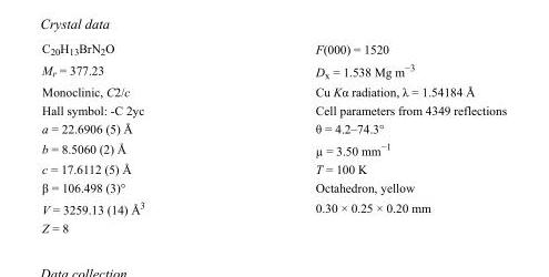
<table><tbody><tr><td>C<sub>20</sub>H<sub>13</sub>BrN<sub>2</sub>O</td><td>F(000) = 1520</td></tr><tr><td>M<sub>r</sub> = 377.23</td><td>D<sub>x</sub> = 1.538 Mg m<sup>−3</sup></td></tr><tr><td>Monoclinic, C2/c</td><td>Cu Kα radiation, λ = 1.54184 Å</td></tr><tr><td>Hall symbol: -C 2yc</td><td>Cell parameters from 4349 reflections</td></tr><tr><td>a = 22.6906 (5) Å</td><td>θ = 4.2–74.3°</td></tr><tr><td>b = 8.5060 (2) Å</td><td>µ = 3.50 mm<sup>−1</sup></td></tr><tr><td>c = 17.6112 (5) Å</td><td>T = 100 K</td></tr><tr><td>β = 106.498 (3)°</td><td>Octahedron, yellow</td></tr><tr><td>V = 3259.13 (14) Å<sup>3</sup></td><td>0.30 × 0.25 × 0.20 mm</td></tr><tr><td>Z = 8</td><td></td></tr></tbody></table>